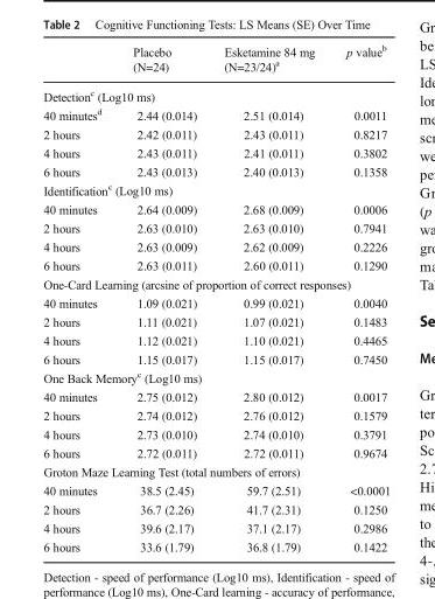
<table><thead><tr><td></td><td>Placebo (N=24)</td><td>Esketamine 84 mg (N=23/24)<sup>a</sup></td><td>p value<sup>b</sup></td></tr></thead><tbody><tr><td colspan="4">Detection<sup>c</sup> (Log10 ms)</td></tr><tr><td>40 minutes<sup>d</sup></td><td>2.44 (0.014)</td><td>2.51 (0.014)</td><td>0.0011</td></tr><tr><td>2 hours</td><td>2.42 (0.011)</td><td>2.43 (0.011)</td><td>0.8217</td></tr><tr><td>4 hours</td><td>2.43 (0.011)</td><td>2.41 (0.011)</td><td>0.3802</td></tr><tr><td>6 hours</td><td>2.43 (0.013)</td><td>2.40 (0.013)</td><td>0.1358</td></tr><tr><td colspan="4">Identification<sup>c</sup> (Log10 ms)</td></tr><tr><td>40 minutes</td><td>2.64 (0.009)</td><td>2.68 (0.009)</td><td>0.0006</td></tr><tr><td>2 hours</td><td>2.63 (0.010)</td><td>2.63 (0.010)</td><td>0.7941</td></tr><tr><td>4 hours</td><td>2.63 (0.009)</td><td>2.62 (0.009)</td><td>0.2226</td></tr><tr><td>6 hours</td><td>2.63 (0.011)</td><td>2.60 (0.011)</td><td>0.1290</td></tr><tr><td colspan="4">One-Card Learning (arcsine of proportion of correct responses)</td></tr><tr><td>40 minutes</td><td>1.09 (0.021)</td><td>0.99 (0.021)</td><td>0.0040</td></tr><tr><td>2 hours</td><td>1.11 (0.021)</td><td>1.07 (0.021)</td><td>0.1483</td></tr><tr><td>4 hours</td><td>1.12 (0.021)</td><td>1.10 (0.021)</td><td>0.4465</td></tr><tr><td>6 hours</td><td>1.15 (0.017)</td><td>1.15 (0.017)</td><td>0.7450</td></tr><tr><td colspan="4">One Back Memory<sup>c</sup> (Log10 ms)</td></tr><tr><td>40 minutes</td><td>2.75 (0.012)</td><td>2.80 (0.012)</td><td>0.0017</td></tr><tr><td>2 hours</td><td>2.74 (0.012)</td><td>2.76 (0.012)</td><td>0.1579</td></tr><tr><td>4 hours</td><td>2.73 (0.010)</td><td>2.74 (0.010)</td><td>0.3791</td></tr><tr><td>6 hours</td><td>2.72 (0.011)</td><td>2.72 (0.011)</td><td>0.9674</td></tr><tr><td colspan="4">Groton Maze Learning Test (total numbers of errors)</td></tr><tr><td>40 minutes</td><td>38.5 (2.45)</td><td>59.7 (2.51)</td><td>&lt;0.0001</td></tr><tr><td>2 hours</td><td>36.7 (2.26)</td><td>41.7 (2.31)</td><td>0.1250</td></tr><tr><td>4 hours</td><td>39.6 (2.17)</td><td>37.1 (2.17)</td><td>0.2986</td></tr><tr><td>6 hours</td><td>33.6 (1.79)</td><td>36.8 (1.79)</td><td>0.1422</td></tr></tbody></table>